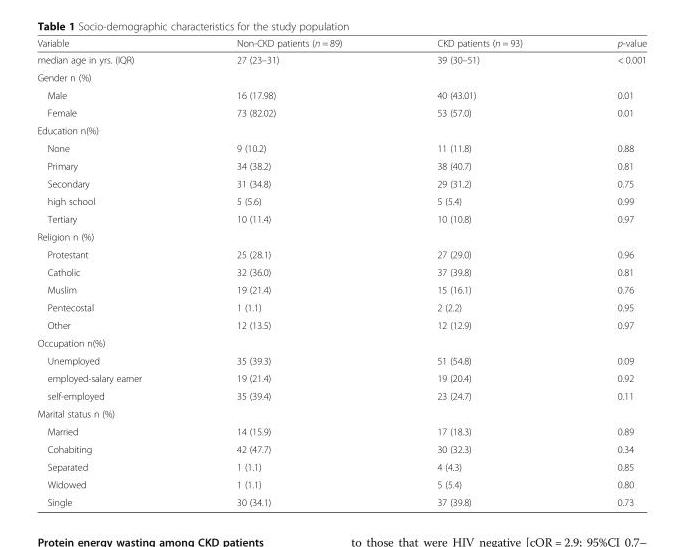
<table><thead><tr><td>Variable</td><td>Non-CKD patients (n = 89)</td><td>CKD patients (n = 93)</td><td>p-value</td></tr></thead><tbody><tr><td>median age in yrs. (IQR)</td><td>27 (23–31)</td><td>39 (30–51)</td><td>&lt; 0.001</td></tr><tr><td colspan="4">Gender n (%)</td></tr><tr><td>Male</td><td>16 (17.98)</td><td>40 (43.01)</td><td>0.01</td></tr><tr><td>Female</td><td>73 (82.02)</td><td>53 (57.0)</td><td>0.01</td></tr><tr><td colspan="4">Education n(%)</td></tr><tr><td>None</td><td>9 (10.2)</td><td>11 (11.8)</td><td>0.88</td></tr><tr><td>Primary</td><td>34 (38.2)</td><td>38 (40.7)</td><td>0.81</td></tr><tr><td>Secondary</td><td>31 (34.8)</td><td>29 (31.2)</td><td>0.75</td></tr><tr><td>high school</td><td>5 (5.6)</td><td>5 (5.4)</td><td>0.99</td></tr><tr><td>Tertiary</td><td>10 (11.4)</td><td>10 (10.8)</td><td>0.97</td></tr><tr><td colspan="4">Religion n (%)</td></tr><tr><td>Protestant</td><td>25 (28.1)</td><td>27 (29.0)</td><td>0.96</td></tr><tr><td>Catholic</td><td>32 (36.0)</td><td>37 (39.8)</td><td>0.81</td></tr><tr><td>Muslim</td><td>19 (21.4)</td><td>15 (16.1)</td><td>0.76</td></tr><tr><td>Pentecostal</td><td>1 (1.1)</td><td>2 (2.2)</td><td>0.95</td></tr><tr><td>Other</td><td>12 (13.5)</td><td>12 (12.9)</td><td>0.97</td></tr><tr><td colspan="4">Occupation n(%)</td></tr><tr><td>Unemployed</td><td>35 (39.3)</td><td>51 (54.8)</td><td>0.09</td></tr><tr><td>employed-salary earner</td><td>19 (21.4)</td><td>19 (20.4)</td><td>0.92</td></tr><tr><td>self-employed</td><td>35 (39.4)</td><td>23 (24.7)</td><td>0.11</td></tr><tr><td colspan="4">Marital status n (%)</td></tr><tr><td>Married</td><td>14 (15.9)</td><td>17 (18.3)</td><td>0.89</td></tr><tr><td>Cohabiting</td><td>42 (47.7)</td><td>30 (32.3)</td><td>0.34</td></tr><tr><td>Separated</td><td>1 (1.1)</td><td>4 (4.3)</td><td>0.85</td></tr><tr><td>Widowed</td><td>1 (1.1)</td><td>5 (5.4)</td><td>0.80</td></tr><tr><td>Single</td><td>30 (34.1)</td><td>37 (39.8)</td><td>0.73</td></tr></tbody></table>